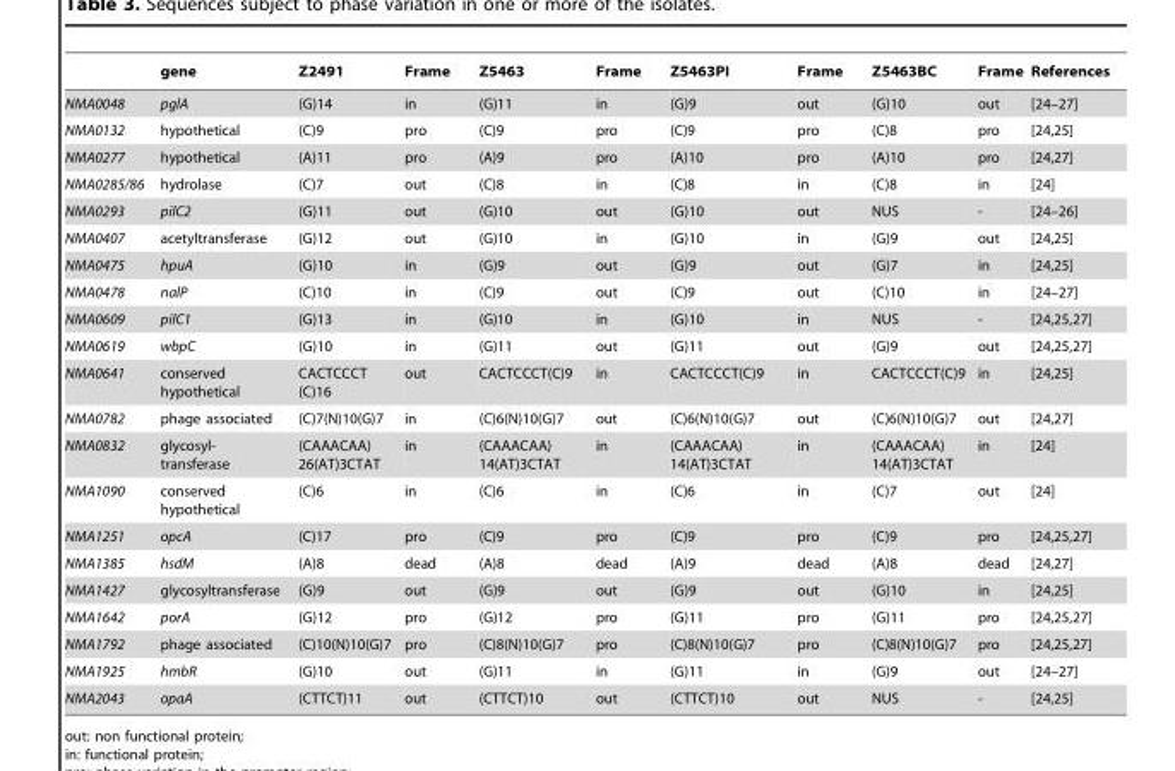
<table><thead><tr><td></td><td>gene</td><td>Z2491</td><td>Frame</td><td>Z5463</td><td>Frame</td><td>Z5463PI</td><td>Frame</td><td>Z5463BC</td><td>Frame</td><td>References</td></tr></thead><tbody><tr><td>NMA0048</td><td>pglA</td><td>(G)14</td><td>in</td><td>(G)11</td><td>in</td><td>(G)9</td><td>out</td><td>(G)10</td><td>out</td><td>[24–27]</td></tr><tr><td>NMA0132</td><td>hypothetical</td><td>(C)9</td><td>pro</td><td>(C)9</td><td>pro</td><td>(C)9</td><td>pro</td><td>(C)8</td><td>pro</td><td>[24,25]</td></tr><tr><td>NMA0277</td><td>hypothetical</td><td>(A)11</td><td>pro</td><td>(A)9</td><td>pro</td><td>(A)10</td><td>pro</td><td>(A)10</td><td>pro</td><td>[24,27]</td></tr><tr><td>NMA0285/86</td><td>hydrolase</td><td>(C)7</td><td>out</td><td>(C)8</td><td>in</td><td>(C)8</td><td>in</td><td>(C)8</td><td>in</td><td>[24]</td></tr><tr><td>NMA0293</td><td>pilC2</td><td>(G)11</td><td>out</td><td>(G)10</td><td>out</td><td>(G)10</td><td>out</td><td>NUS</td><td>-</td><td>[24–26]</td></tr><tr><td>NMA0407</td><td>acetyltransferase</td><td>(G)12</td><td>out</td><td>(G)10</td><td>in</td><td>(G)10</td><td>in</td><td>(G)9</td><td>out</td><td>[24,25]</td></tr><tr><td>NMA0475</td><td>hpuA</td><td>(G)10</td><td>in</td><td>(G)9</td><td>out</td><td>(G)9</td><td>out</td><td>(G)7</td><td>in</td><td>[24,25]</td></tr><tr><td>NMA0478</td><td>nalP</td><td>(C)10</td><td>in</td><td>(C)9</td><td>out</td><td>(C)9</td><td>out</td><td>(C)10</td><td>in</td><td>[24–27]</td></tr><tr><td>NMA0609</td><td>pilC1</td><td>(G)13</td><td>in</td><td>(G)10</td><td>in</td><td>(G)10</td><td>in</td><td>NUS</td><td>-</td><td>[24,25,27]</td></tr><tr><td>NMA0619</td><td>wbpC</td><td>(G)10</td><td>in</td><td>(G)11</td><td>out</td><td>(G)11</td><td>out</td><td>(G)9</td><td>out</td><td>[24,25,27]</td></tr><tr><td>NMA0641</td><td>conserved hypothetical</td><td>CACTCCCT (C)16</td><td>out</td><td>CACTCCCT(C)9</td><td>in</td><td>CACTCCCT(C)9</td><td>in</td><td>CACTCCCT(C)9</td><td>in</td><td>[24,25]</td></tr><tr><td>NMA0782</td><td>phage associated</td><td>(C)7(N)10(G)7</td><td>in</td><td>(C)6(N)10(G)7</td><td>out</td><td>(C)6(N)10(G)7</td><td>out</td><td>(C)6(N)10(G)7</td><td>out</td><td>[24,27]</td></tr><tr><td>NMA0832</td><td>glycosyl- transferase</td><td>(CAAACAA) 26(AT)3CTAT</td><td>in</td><td>(CAAACAA) 14(AT)3CTAT</td><td>in</td><td>(CAAACAA) 14(AT)3CTAT</td><td>in</td><td>(CAAACAA) 14(AT)3CTAT</td><td>in</td><td>[24]</td></tr><tr><td>NMA1090</td><td>conserved hypothetical</td><td>(C)6</td><td>in</td><td>(C)6</td><td>in</td><td>(C)6</td><td>in</td><td>(C)7</td><td>out</td><td>[24]</td></tr><tr><td>NMA1251</td><td>opcA</td><td>(C)17</td><td>pro</td><td>(C)9</td><td>pro</td><td>(C)9</td><td>pro</td><td>(C)9</td><td>pro</td><td>[24,25,27]</td></tr><tr><td>NMA1385</td><td>hsdM</td><td>(A)8</td><td>dead</td><td>(A)8</td><td>dead</td><td>(A)9</td><td>dead</td><td>(A)8</td><td>dead</td><td>[24,27]</td></tr><tr><td>NMA1427</td><td>glycosyltransferase</td><td>(G)9</td><td>out</td><td>(G)9</td><td>out</td><td>(G)9</td><td>out</td><td>(G)10</td><td>in</td><td>[24,25]</td></tr><tr><td>NMA1642</td><td>porA</td><td>(G)12</td><td>pro</td><td>(G)12</td><td>pro</td><td>(G)11</td><td>pro</td><td>(G)11</td><td>pro</td><td>[24,25,27]</td></tr><tr><td>NMA1792</td><td>phage associated</td><td>(C)10(N)10(G)7</td><td>pro</td><td>(C)8(N)10(G)7</td><td>pro</td><td>(C)8(N)10(G)7</td><td>pro</td><td>(C)8(N)10(G)7</td><td>pro</td><td>[24,25,27]</td></tr><tr><td>NMA1925</td><td>hmbR</td><td>(G)10</td><td>out</td><td>(G)11</td><td>in</td><td>(G)11</td><td>in</td><td>(G)9</td><td>out</td><td>[24–27]</td></tr><tr><td>NMA2043</td><td>opaA</td><td>(CTTCT)11</td><td>out</td><td>(CTTCT)10</td><td>out</td><td>(CTTCT)10</td><td>out</td><td>NUS</td><td>-</td><td>[24,25]</td></tr></tbody></table>